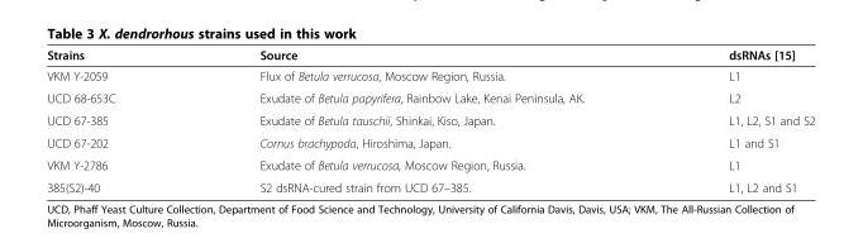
<table><thead><tr><td>Strains</td><td>Source</td><td>dsRNAs [15]</td></tr></thead><tbody><tr><td>VKM Y-2059</td><td>Flux of Betula verrucosa, Moscow Region, Russia.</td><td>L1</td></tr><tr><td>UCD 68-653C</td><td>Exudate of Betula papyrifera, Rainbow Lake, Kenai Peninsula, AK.</td><td>L2</td></tr><tr><td>UCD 67-385</td><td>Exudate of Betula tauschii, Shinkai, Kiso, Japan.</td><td>L1, L2, S1 and S2</td></tr><tr><td>UCD 67-202</td><td>Cornus brachypoda, Hiroshima, Japan.</td><td>L1 and S1</td></tr><tr><td>VKM Y-2786</td><td>Exudate of Betula verrucosa, Moscow Region, Russia.</td><td>L1</td></tr><tr><td>385(S2)-40</td><td>S2 dsRNA-cured strain from UCD 67–385.</td><td>L1, L2 and S1</td></tr></tbody></table>